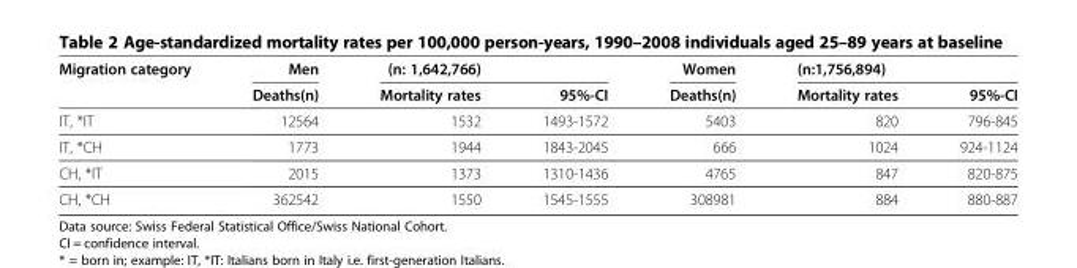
<table><thead><tr><td rowspan="2">Migration category</td><td rowspan="2">Men Deaths(n)</td><td rowspan="2">(n: 1,642,766) Mortality rates</td><td rowspan="2">95%-CI</td><td rowspan="2">Women Deaths(n)</td><td rowspan="2">(n:1,756,894) Mortality rates</td><td rowspan="2">95%-CI</td></tr><tr></tr></thead><tbody><tr><td>IT, *IT</td><td>12564</td><td>1532</td><td>1493-1572</td><td>5403</td><td>820</td><td>796-845</td></tr><tr><td>IT, *CH</td><td>1773</td><td>1944</td><td>1843-2045</td><td>666</td><td>1024</td><td>924-1124</td></tr><tr><td>CH, *IT</td><td>2015</td><td>1373</td><td>1310-1436</td><td>4765</td><td>847</td><td>820-875</td></tr><tr><td>CH, *CH</td><td>362542</td><td>1550</td><td>1545-1555</td><td>308981</td><td>884</td><td>880-887</td></tr></tbody></table>